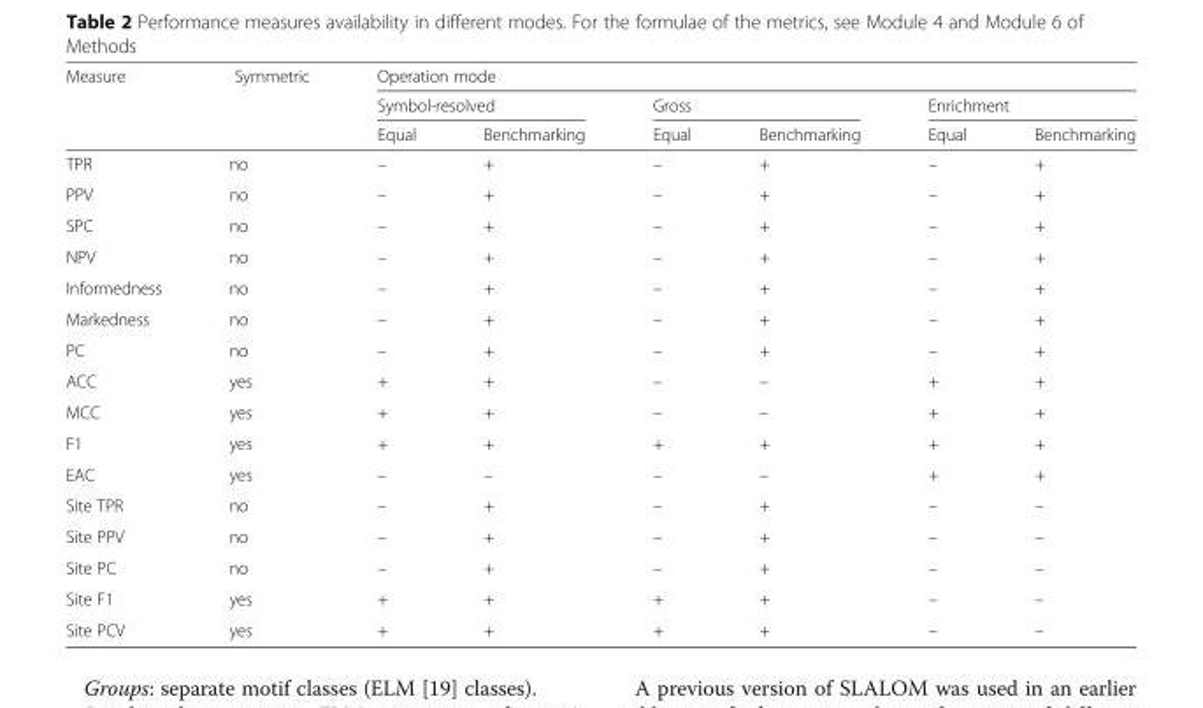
<table><thead><tr><td rowspan="3">Measure</td><td rowspan="3">Symmetric</td><td colspan="6">Operation mode</td></tr><tr><td colspan="2">Symbol-resolved</td><td colspan="2">Gross</td><td colspan="2">Enrichment</td></tr><tr><td>Equal</td><td>Benchmarking</td><td>Equal</td><td>Benchmarking</td><td>Equal</td><td>Benchmarking</td></tr></thead><tbody><tr><td>TPR</td><td>no</td><td>–</td><td>+</td><td>–</td><td>+</td><td>–</td><td>+</td></tr><tr><td>PPV</td><td>no</td><td>–</td><td>+</td><td>–</td><td>+</td><td>–</td><td>+</td></tr><tr><td>SPC</td><td>no</td><td>–</td><td>+</td><td>–</td><td>+</td><td>–</td><td>+</td></tr><tr><td>NPV</td><td>no</td><td>–</td><td>+</td><td>–</td><td>+</td><td>–</td><td>+</td></tr><tr><td>Informedness</td><td>no</td><td>–</td><td>+</td><td>–</td><td>+</td><td>–</td><td>+</td></tr><tr><td>Markedness</td><td>no</td><td>–</td><td>+</td><td>–</td><td>+</td><td>–</td><td>+</td></tr><tr><td>PC</td><td>no</td><td>–</td><td>+</td><td>–</td><td>+</td><td>–</td><td>+</td></tr><tr><td>ACC</td><td>yes</td><td>+</td><td>+</td><td>–</td><td>–</td><td>+</td><td>+</td></tr><tr><td>MCC</td><td>yes</td><td>+</td><td>+</td><td>–</td><td>–</td><td>+</td><td>+</td></tr><tr><td>F1</td><td>yes</td><td>+</td><td>+</td><td>+</td><td>+</td><td>+</td><td>+</td></tr><tr><td>EAC</td><td>yes</td><td>–</td><td>–</td><td>–</td><td>–</td><td>+</td><td>+</td></tr><tr><td>Site TPR</td><td>no</td><td>–</td><td>+</td><td>–</td><td>+</td><td>–</td><td>–</td></tr><tr><td>Site PPV</td><td>no</td><td>–</td><td>+</td><td>–</td><td>+</td><td>–</td><td>–</td></tr><tr><td>Site PC</td><td>no</td><td>–</td><td>+</td><td>–</td><td>+</td><td>–</td><td>–</td></tr><tr><td>Site F1</td><td>yes</td><td>+</td><td>+</td><td>+</td><td>+</td><td>–</td><td>–</td></tr><tr><td>Site PCV</td><td>yes</td><td>+</td><td>+</td><td>+</td><td>+</td><td>–</td><td>–</td></tr></tbody></table>